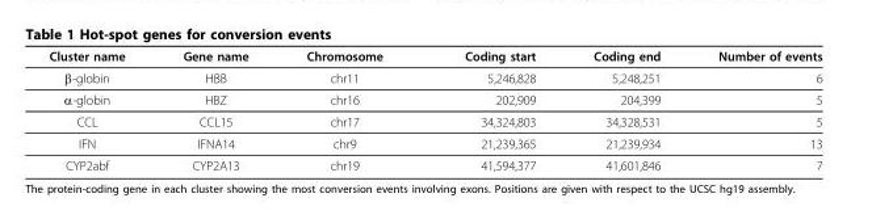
<table><thead><tr><td>Cluster name</td><td>Gene name</td><td>Chromosome</td><td>Coding start</td><td>Coding end</td><td>Number of events</td></tr></thead><tbody><tr><td>β-globin</td><td>HBB</td><td>chr11</td><td>5,246,828</td><td>5,248,251</td><td>6</td></tr><tr><td>α-globin</td><td>HBZ</td><td>chr16</td><td>202,909</td><td>204,399</td><td>5</td></tr><tr><td>CCL</td><td>CCL15</td><td>chr17</td><td>34,324,803</td><td>34,328,531</td><td>5</td></tr><tr><td>IFN</td><td>IFNA14</td><td>chr9</td><td>21,239,365</td><td>21,239,934</td><td>13</td></tr><tr><td>CYP2abf</td><td>CYP2A13</td><td>chr19</td><td>41,594,377</td><td>41,601,846</td><td>7</td></tr></tbody></table>